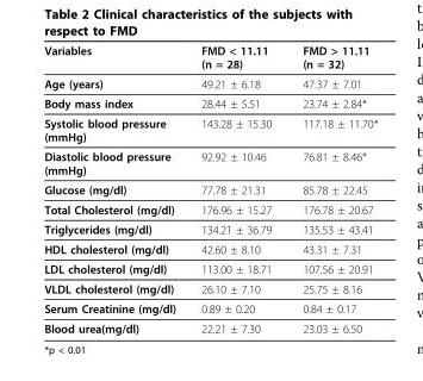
<table><thead><tr><td>Variables</td><td>FMD &lt; 11.11 (n = 28)</td><td>FMD &gt; 11.11 (n = 32)</td></tr></thead><tbody><tr><td>Age (years)</td><td>49.21 ± 6.18</td><td>47.37 ± 7.01</td></tr><tr><td>Body mass index</td><td>28.44 ± 5.51</td><td>23.74 ± 2.84*</td></tr><tr><td>Systolic blood pressure (mmHg)</td><td>143.28 ± 15.30</td><td>117.18 ± 11.70*</td></tr><tr><td>Diastolic blood pressure (mmHg)</td><td>92.92 ± 10.46</td><td>76.81 ± 8.46*</td></tr><tr><td>Glucose (mg/dl)</td><td>77.78 ± 21.31</td><td>85.78 ± 22.45</td></tr><tr><td>Total Cholesterol (mg/dl)</td><td>176.96 ± 15.27</td><td>176.78 ± 20.67</td></tr><tr><td>Triglycerides (mg/dl)</td><td>134.21 ± 36.79</td><td>135.53 ± 43.41</td></tr><tr><td>HDL cholesterol (mg/dl)</td><td>42.60 ± 8.10</td><td>43.31 ± 7.31</td></tr><tr><td>LDL cholesterol (mg/dl)</td><td>113.00 ± 18.71</td><td>107.56 ± 20.91</td></tr><tr><td>VLDL cholesterol (mg/dl)</td><td>26.10 ± 7.10</td><td>25.75 ± 8.16</td></tr><tr><td>Serum Creatinine (mg/dl)</td><td>0.89 ± 0.20</td><td>0.84 ± 0.17</td></tr><tr><td>Blood urea(mg/dl)</td><td>22.21 ± 7.30</td><td>23.03 ± 6.50</td></tr></tbody></table>